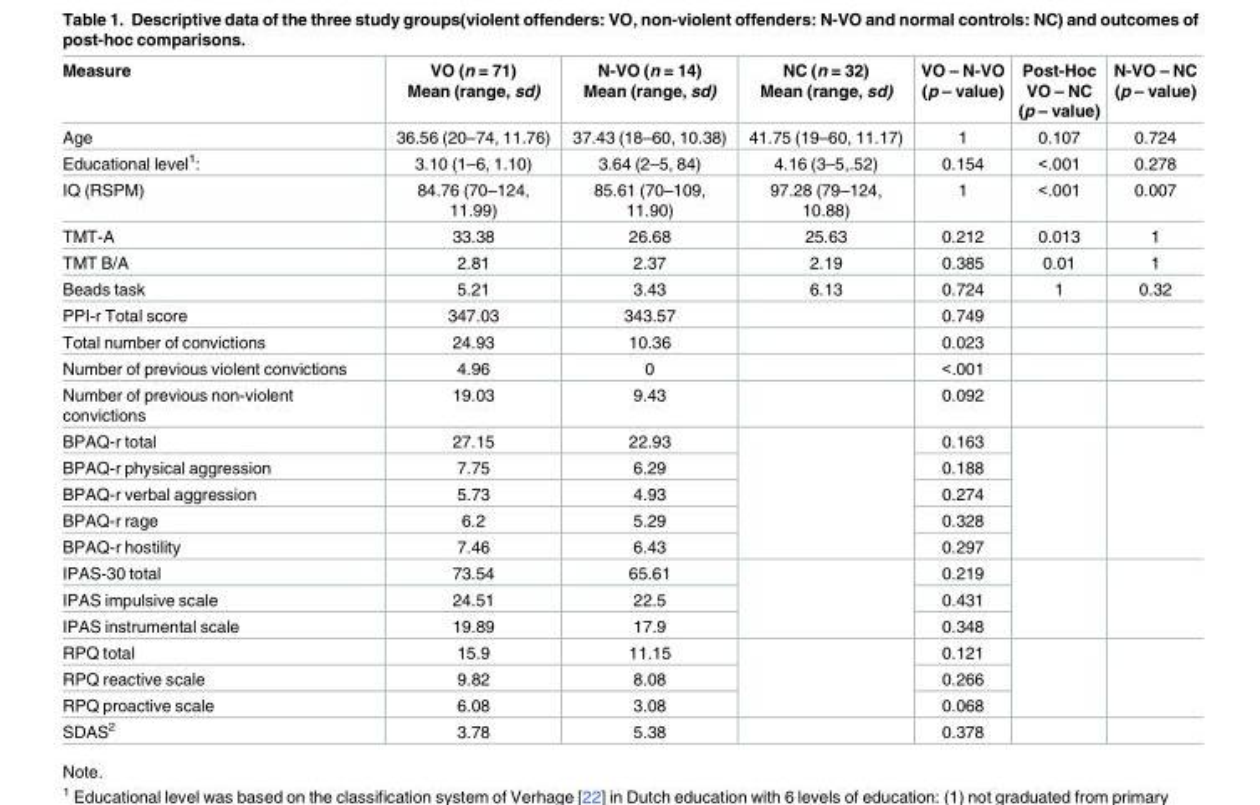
<table><thead><tr><td>Measure</td><td>VO (n = 71) Mean (range, sd)</td><td>N-VO (n = 14) Mean (range, sd)</td><td>NC (n = 32) Mean (range, sd)</td><td>VO – N-VO (p – value)</td><td>Post-Hoc VO – NC (p – value)</td><td>N-VO – NC (p – value)</td></tr></thead><tbody><tr><td>Age</td><td>36.56 (20–74, 11.76)</td><td>37.43 (18–60, 10.38)</td><td>41.75 (19–60, 11.17)</td><td>1</td><td>0.107</td><td>0.724</td></tr><tr><td>Educational level<sup>1</sup>:</td><td>3.10 (1–6, 1.10)</td><td>3.64 (2–5, 84)</td><td>4.16 (3–5,.52)</td><td>0.154</td><td>&lt;.001</td><td>0.278</td></tr><tr><td>IQ (RSPM)</td><td>84.76 (70–124, 11.99)</td><td>85.61 (70–109, 11.90)</td><td>97.28 (79–124, 10.88)</td><td>1</td><td>&lt;.001</td><td>0.007</td></tr><tr><td>TMT-A</td><td>33.38</td><td>26.68</td><td>25.63</td><td>0.212</td><td>0.013</td><td>1</td></tr><tr><td>TMT B/A</td><td>2.81</td><td>2.37</td><td>2.19</td><td>0.385</td><td>0.01</td><td>1</td></tr><tr><td>Beads task</td><td>5.21</td><td>3.43</td><td>6.13</td><td>0.724</td><td>1</td><td>0.32</td></tr><tr><td>PPI-r Total score</td><td>347.03</td><td>343.57</td><td></td><td>0.749</td><td></td><td></td></tr><tr><td>Total number of convictions</td><td>24.93</td><td>10.36</td><td></td><td>0.023</td><td></td><td></td></tr><tr><td>Number of previous violent convictions</td><td>4.96</td><td>0</td><td></td><td>&lt;.001</td><td></td><td></td></tr><tr><td>Number of previous non-violent convictions</td><td>19.03</td><td>9.43</td><td></td><td>0.092</td><td></td><td></td></tr><tr><td>BPAQ-r total</td><td>27.15</td><td>22.93</td><td rowspan="5"></td><td>0.163</td><td rowspan="5"></td><td rowspan="5"></td></tr><tr><td>BPAQ-r physical aggression</td><td>7.75</td><td>6.29</td><td>0.188</td></tr><tr><td>BPAQ-r verbal aggression</td><td>5.73</td><td>4.93</td><td>0.274</td></tr><tr><td>BPAQ-r rage</td><td>6.2</td><td>5.29</td><td>0.328</td></tr><tr><td>BPAQ-r hostility</td><td>7.46</td><td>6.43</td><td>0.297</td></tr><tr><td>IPAS-30 total</td><td>73.54</td><td>65.61</td><td rowspan="3"></td><td>0.219</td><td rowspan="3"></td><td rowspan="3"></td></tr><tr><td>IPAS impulsive scale</td><td>24.51</td><td>22.5</td><td>0.431</td></tr><tr><td>IPAS instrumental scale</td><td>19.89</td><td>17.9</td><td>0.348</td></tr><tr><td>RPQ total</td><td>15.9</td><td>11.15</td><td rowspan="3"></td><td>0.121</td><td rowspan="3"></td><td rowspan="3"></td></tr><tr><td>RPQ reactive scale</td><td>9.82</td><td>8.08</td><td>0.266</td></tr><tr><td>RPQ proactive scale</td><td>6.08</td><td>3.08</td><td>0.068</td></tr><tr><td>SDAS<sup>2</sup></td><td>3.78</td><td>5.38</td><td></td><td>0.378</td><td></td><td></td></tr></tbody></table>